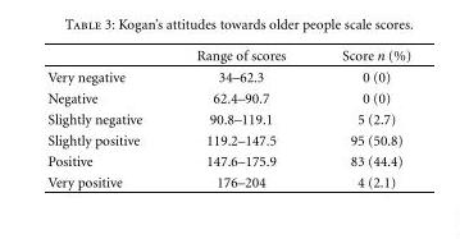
<table><thead><tr><td></td><td>Range of scores</td><td>Score n (%)</td></tr></thead><tbody><tr><td>Very negative</td><td>34–62.3</td><td>0 (0)</td></tr><tr><td>Negative</td><td>62.4–90.7</td><td>0 (0)</td></tr><tr><td>Slightly negative</td><td>90.8–119.1</td><td>5 (2.7)</td></tr><tr><td>Slightly positive</td><td>119.2–147.5</td><td>95 (50.8)</td></tr><tr><td>Positive</td><td>147.6–175.9</td><td>83 (44.4)</td></tr><tr><td>Very positive</td><td>176–204</td><td>4 (2.1)</td></tr></tbody></table>